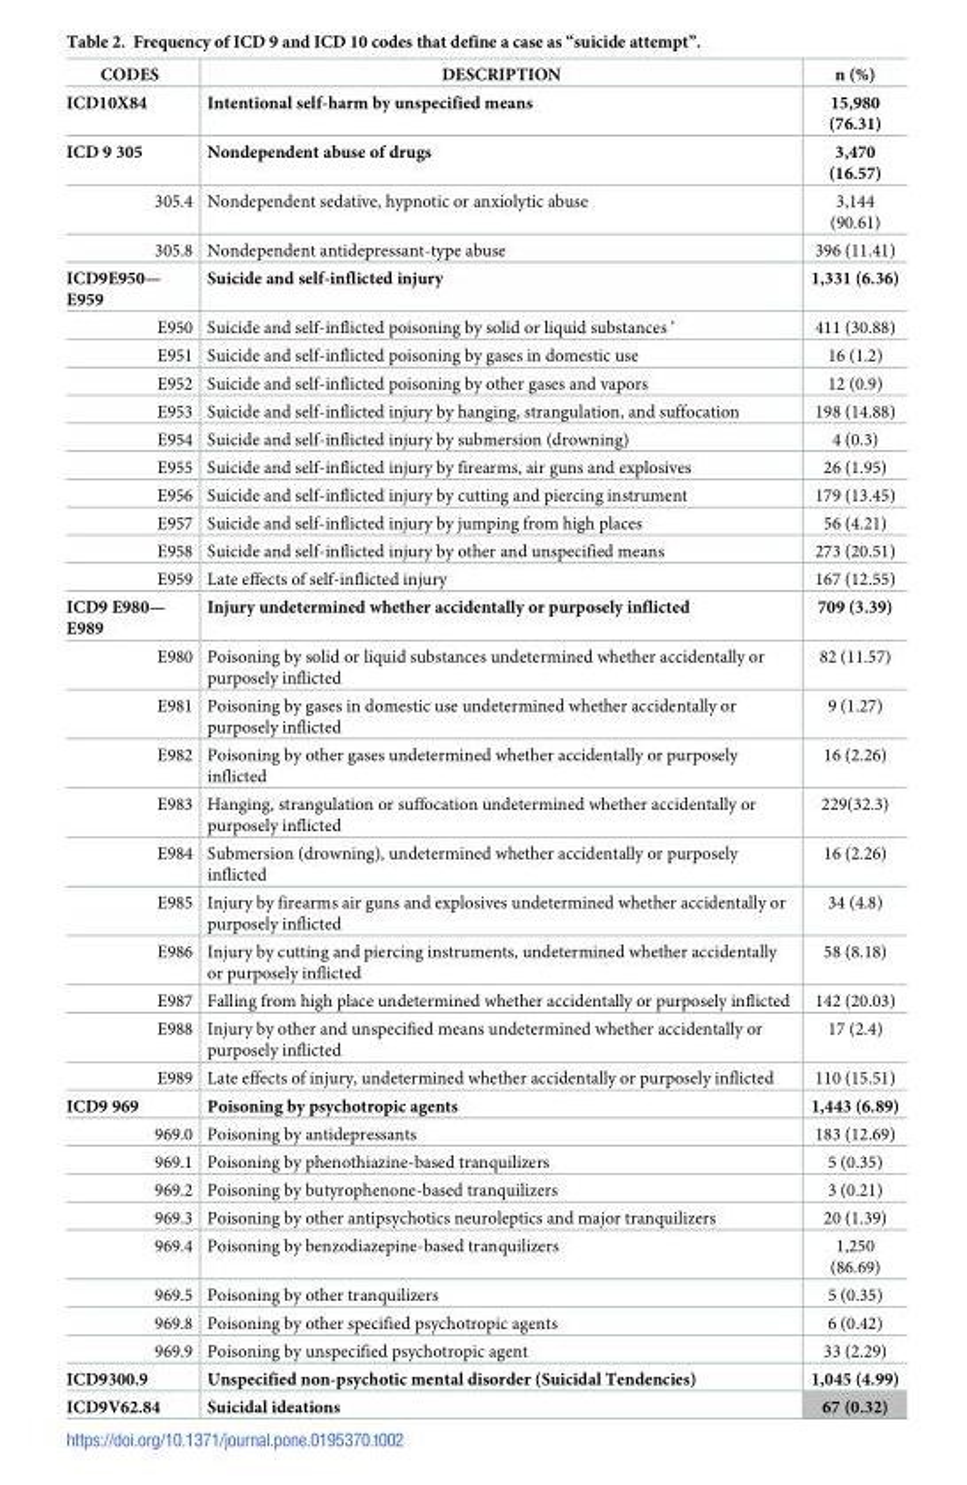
<table><thead><tr><td>CODES</td><td>DESCRIPTION</td><td>n (%)</td></tr></thead><tbody><tr><td>ICD10X84</td><td>Intentional self-harm by unspecified means</td><td>15,980 (76.31)</td></tr><tr><td>ICD 9 305</td><td>Nondependent abuse of drugs</td><td>3,470 (16.57)</td></tr><tr><td>305.4</td><td>Nondependent sedative, hypnotic or anxiolytic abuse</td><td>3,144 (90.61)</td></tr><tr><td>305.8</td><td>Nondependent antidepressant-type abuse</td><td>396 (11.41)</td></tr><tr><td>ICD9E950— E959</td><td>Suicide and self-inflicted injury</td><td>1,331 (6.36)</td></tr><tr><td>E950</td><td>Suicide and self-inflicted poisoning by solid or liquid substances ‘</td><td>411 (30.88)</td></tr><tr><td>E951</td><td>Suicide and self-inflicted poisoning by gases in domestic use</td><td>16 (1.2)</td></tr><tr><td>E952</td><td>Suicide and self-inflicted poisoning by other gases and vapors</td><td>12 (0.9)</td></tr><tr><td>E953</td><td>Suicide and self-inflicted injury by hanging, strangulation, and suffocation</td><td>198 (14.88)</td></tr><tr><td>E954</td><td>Suicide and self-inflicted injury by submersion (drowning)</td><td>4 (0.3)</td></tr><tr><td>E955</td><td>Suicide and self-inflicted injury by firearms, air guns and explosives</td><td>26 (1.95)</td></tr><tr><td>E956</td><td>Suicide and self-inflicted injury by cutting and piercing instrument</td><td>179 (13.45)</td></tr><tr><td>E957</td><td>Suicide and self-inflicted injury by jumping from high places</td><td>56 (4.21)</td></tr><tr><td>E958</td><td>Suicide and self-inflicted injury by other and unspecified means</td><td>273 (20.51)</td></tr><tr><td>E959</td><td>Late effects of self-inflicted injury</td><td>167 (12.55)</td></tr><tr><td>ICD9 E980— E989</td><td>Injury undetermined whether accidentally or purposely inflicted</td><td>709 (3.39)</td></tr><tr><td>E980</td><td>Poisoning by solid or liquid substances undetermined whether accidentally or purposely inflicted</td><td>82 (11.57)</td></tr><tr><td>E981</td><td>Poisoning by gases in domestic use undetermined whether accidentally or purposely inflicted</td><td>9 (1.27)</td></tr><tr><td>E982</td><td>Poisoning by other gases undetermined whether accidentally or purposely inflicted</td><td>16 (2.26)</td></tr><tr><td>E983</td><td>Hanging, strangulation or suffocation undetermined whether accidentally or purposely inflicted</td><td>229(32.3)</td></tr><tr><td>E984</td><td>Submersion (drowning), undetermined whether accidentally or purposely inflicted</td><td>16 (2.26)</td></tr><tr><td>E985</td><td>Injury by firearms air guns and explosives undetermined whether accidentally or purposely inflicted</td><td>34 (4.8)</td></tr><tr><td>E986</td><td>Injury by cutting and piercing instruments, undetermined whether accidentally or purposely inflicted</td><td>58 (8.18)</td></tr><tr><td>E987</td><td>Falling from high place undetermined whether accidentally or purposely inflicted</td><td>142 (20.03)</td></tr><tr><td>E988</td><td>Injury by other and unspecified means undetermined whether accidentally or purposely inflicted</td><td>17 (2.4)</td></tr><tr><td>E989</td><td>Late effects of injury, undetermined whether accidentally or purposely inflicted</td><td>110 (15.51)</td></tr><tr><td>ICD9 969</td><td>Poisoning by psychotropic agents</td><td>1,443 (6.89)</td></tr><tr><td>969.0</td><td>Poisoning by antidepressants</td><td>183 (12.69)</td></tr><tr><td>969.1</td><td>Poisoning by phenothiazine-based tranquilizers</td><td>5 (0.35)</td></tr><tr><td>969.2</td><td>Poisoning by butyrophenone-based tranquilizers</td><td>3 (0.21)</td></tr><tr><td>969.3</td><td>Poisoning by other antipsychotics neuroleptics and major tranquilizers</td><td>20 (1.39)</td></tr><tr><td>969.4</td><td>Poisoning by benzodiazepine-based tranquilizers</td><td>1,250 (86.69)</td></tr><tr><td>969.5</td><td>Poisoning by other tranquilizers</td><td>5 (0.35)</td></tr><tr><td>969.8</td><td>Poisoning by other specified psychotropic agents</td><td>6 (0.42)</td></tr><tr><td>969.9</td><td>Poisoning by unspecified psychotropic agent</td><td>33 (2.29)</td></tr><tr><td>ICD9300.9</td><td>Unspecified non-psychotic mental disorder (Suicidal Tendencies)</td><td>1,045 (4.99)</td></tr><tr><td>ICD9V62.84</td><td>Suicidal ideations</td><td>67 (0.32)</td></tr></tbody></table>